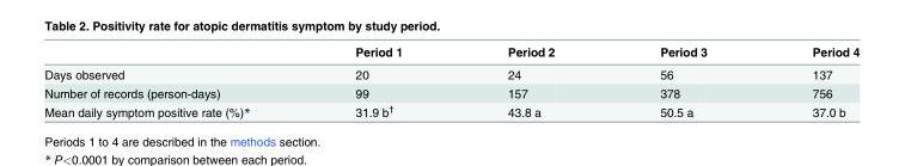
<table><thead><tr><td></td><td>Period 1</td><td>Period 2</td><td>Period 3</td><td>Period 4</td></tr></thead><tbody><tr><td>Days observed</td><td>20</td><td>24</td><td>56</td><td>137</td></tr><tr><td>Number of records (person-days)</td><td>99</td><td>157</td><td>378</td><td>756</td></tr><tr><td>Mean daily symptom positive rate (%)*</td><td>31.9 b<sup>†</sup></td><td>43.8 a</td><td>50.5 a</td><td>37.0 b</td></tr></tbody></table>